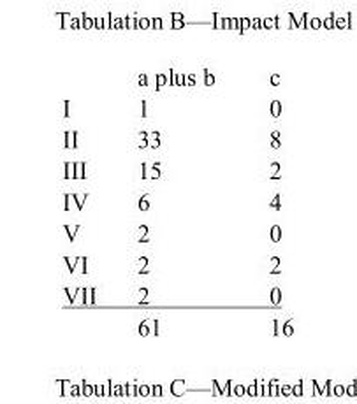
<table><thead><tr><td></td><td>a plus b</td><td>c</td></tr></thead><tbody><tr><td>I</td><td>1</td><td>0</td></tr><tr><td>II</td><td>33</td><td>8</td></tr><tr><td>III</td><td>15</td><td>2</td></tr><tr><td>IV</td><td>6</td><td>4</td></tr><tr><td>V</td><td>2</td><td>0</td></tr><tr><td>VI</td><td>2</td><td>2</td></tr><tr><td rowspan="2">VII</td><td>2</td><td>0</td></tr><tr><td>61</td><td>16</td></tr></tbody></table>